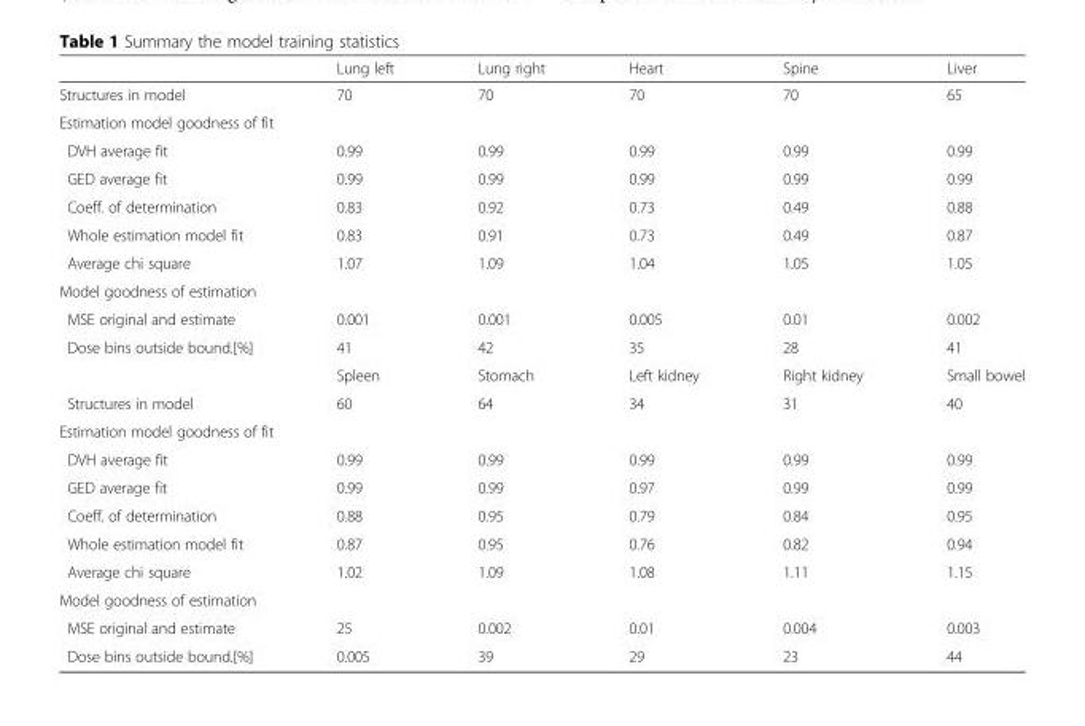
<table><thead><tr><td></td><td>Lung left</td><td>Lung right</td><td>Heart</td><td>Spine</td><td>Liver</td></tr></thead><tbody><tr><td>Structures in model</td><td>70</td><td>70</td><td>70</td><td>70</td><td>65</td></tr><tr><td colspan="6">Estimation model goodness of fit</td></tr><tr><td>DVH average fit</td><td>0.99</td><td>0.99</td><td>0.99</td><td>0.99</td><td>0.99</td></tr><tr><td>GED average fit</td><td>0.99</td><td>0.99</td><td>0.99</td><td>0.99</td><td>0.99</td></tr><tr><td>Coeff. of determination</td><td>0.83</td><td>0.92</td><td>0.73</td><td>0.49</td><td>0.88</td></tr><tr><td>Whole estimation model fit</td><td>0.83</td><td>0.91</td><td>0.73</td><td>0.49</td><td>0.87</td></tr><tr><td>Average chi square</td><td>1.07</td><td>1.09</td><td>1.04</td><td>1.05</td><td>1.05</td></tr><tr><td colspan="6">Model goodness of estimation</td></tr><tr><td>MSE original and estimate</td><td>0.001</td><td>0.001</td><td>0.005</td><td>0.01</td><td>0.002</td></tr><tr><td rowspan="2">Dose bins outside bound.[%]</td><td>41</td><td>42</td><td>35</td><td>28</td><td>41</td></tr><tr><td>Spleen</td><td>Stomach</td><td>Left kidney</td><td>Right kidney</td><td>Small bowel</td></tr><tr><td>Structures in model</td><td>60</td><td>64</td><td>34</td><td>31</td><td>40</td></tr><tr><td colspan="6">Estimation model goodness of fit</td></tr><tr><td>DVH average fit</td><td>0.99</td><td>0.99</td><td>0.99</td><td>0.99</td><td>0.99</td></tr><tr><td>GED average fit</td><td>0.99</td><td>0.99</td><td>0.97</td><td>0.99</td><td>0.99</td></tr><tr><td>Coeff. of determination</td><td>0.88</td><td>0.95</td><td>0.79</td><td>0.84</td><td>0.95</td></tr><tr><td>Whole estimation model fit</td><td>0.87</td><td>0.95</td><td>0.76</td><td>0.82</td><td>0.94</td></tr><tr><td>Average chi square</td><td>1.02</td><td>1.09</td><td>1.08</td><td>1.11</td><td>1.15</td></tr><tr><td colspan="6">Model goodness of estimation</td></tr><tr><td>MSE original and estimate</td><td>25</td><td>0.002</td><td>0.01</td><td>0.004</td><td>0.003</td></tr><tr><td>Dose bins outside bound.[%]</td><td>0.005</td><td>39</td><td>29</td><td>23</td><td>44</td></tr></tbody></table>